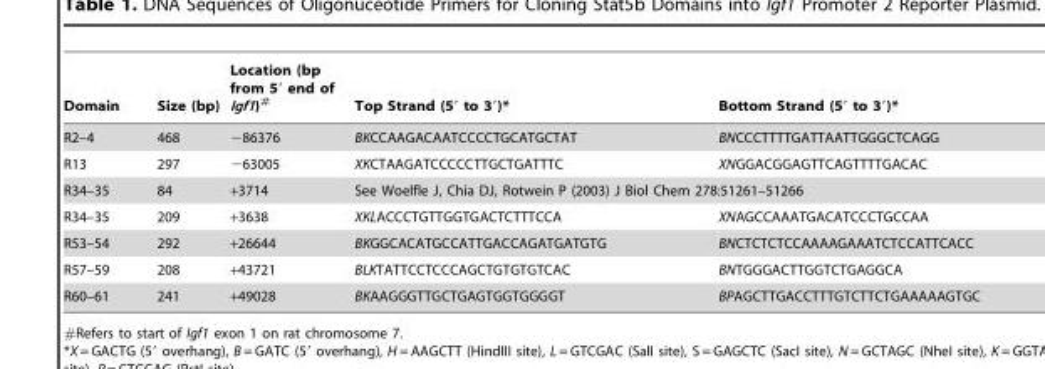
<table><thead><tr><td>Domain</td><td>Size (bp)</td><td>Location (bp from 5′ end of Igf1)<sup>#</sup></td><td>Top Strand (5′ to 3′)*</td><td>Bottom Strand (5′ to 3′)*</td></tr></thead><tbody><tr><td>R2–4</td><td>468</td><td>−86376</td><td>BKCCAAGACAATCCCCTGCATGCTAT</td><td>BNCCCTTTTGATTAATTGGGCTCAGG</td></tr><tr><td>R13</td><td>297</td><td>−63005</td><td>XKCTAAGATCCCCCTTGCTGATTTC</td><td>XNGGACGGAGTTCAGTTTTGACAC</td></tr><tr><td>R34–35</td><td>84</td><td>+3714</td><td colspan="2">See Woelfle J, Chia DJ, Rotwein P (2003) J Biol Chem 278:51261–51266</td></tr><tr><td>R34–35</td><td>209</td><td>+3638</td><td>XKLACCCTGTTGGTGACTCTTTCCA</td><td>XNAGCCAAATGACATCCCTGCCAA</td></tr><tr><td>R53–54</td><td>292</td><td>+26644</td><td>BKGGCACATGCCATTGACCAGATGATGTG</td><td>BNCTCTCTCCAAAAGAAATCTCCATTCACC</td></tr><tr><td>R57–59</td><td>208</td><td>+43721</td><td>BLKTATTCCTCCCAGCTGTGTGTCAC</td><td>BNTGGGACTTGGTCTGAGGCA</td></tr><tr><td>R60–61</td><td>241</td><td>+49028</td><td>BKAAGGGTTGCTGAGTGGTGGGGT</td><td>BPAGCTTGACCTTTGTCTTCTGAAAAAGTGC</td></tr></tbody></table>